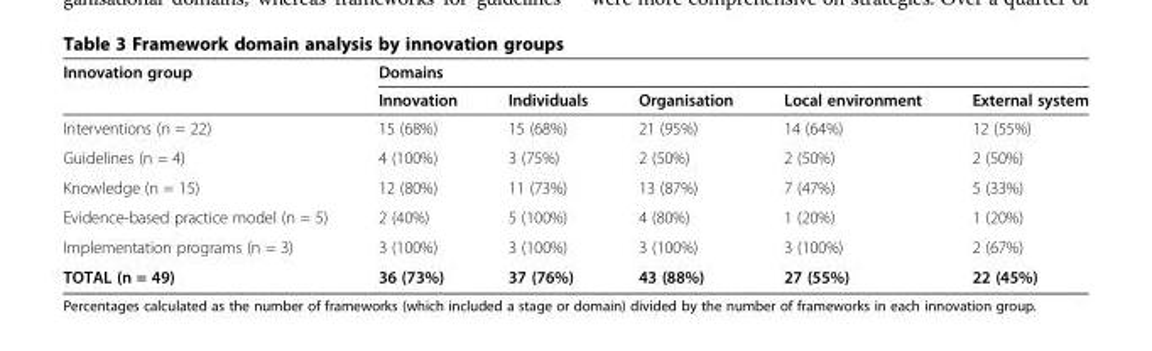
<table><thead><tr><td rowspan="2">Innovation group</td><td colspan="5">Domains</td></tr><tr><td>Innovation</td><td>Individuals</td><td>Organisation</td><td>Local environment</td><td>External system</td></tr></thead><tbody><tr><td>Interventions (n = 22)</td><td>15 (68%)</td><td>15 (68%)</td><td>21 (95%)</td><td>14 (64%)</td><td>12 (55%)</td></tr><tr><td>Guidelines (n = 4)</td><td>4 (100%)</td><td>3 (75%)</td><td>2 (50%)</td><td>2 (50%)</td><td>2 (50%)</td></tr><tr><td>Knowledge (n = 15)</td><td>12 (80%)</td><td>11 (73%)</td><td>13 (87%)</td><td>7 (47%)</td><td>5 (33%)</td></tr><tr><td>Evidence-based practice model (n = 5)</td><td>2 (40%)</td><td>5 (100%)</td><td>4 (80%)</td><td>1 (20%)</td><td>1 (20%)</td></tr><tr><td>Implementation programs (n = 3)</td><td>3 (100%)</td><td>3 (100%)</td><td>3 (100%)</td><td>3 (100%)</td><td>2 (67%)</td></tr><tr><td>TOTAL (n = 49)</td><td>36 (73%)</td><td>37 (76%)</td><td>43 (88%)</td><td>27 (55%)</td><td>22 (45%)</td></tr></tbody></table>